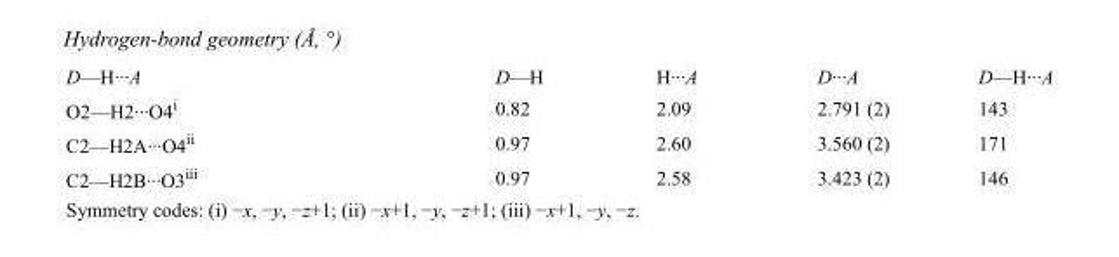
<table><tbody><tr><td>D—H···A</td><td>D—H</td><td>H···A</td><td>D···A</td><td>D—H···A</td></tr><tr><td>O2—H2···O4<sup>i</sup></td><td>0.82</td><td>2.09</td><td>2.791 (2)</td><td>143</td></tr><tr><td>C2—H2A···O4<sup>ii</sup></td><td>0.97</td><td>2.60</td><td>3.560 (2)</td><td>171</td></tr><tr><td>C2—H2B···O3<sup>iii</sup></td><td>0.97</td><td>2.58</td><td>3.423 (2)</td><td>146</td></tr></tbody></table>